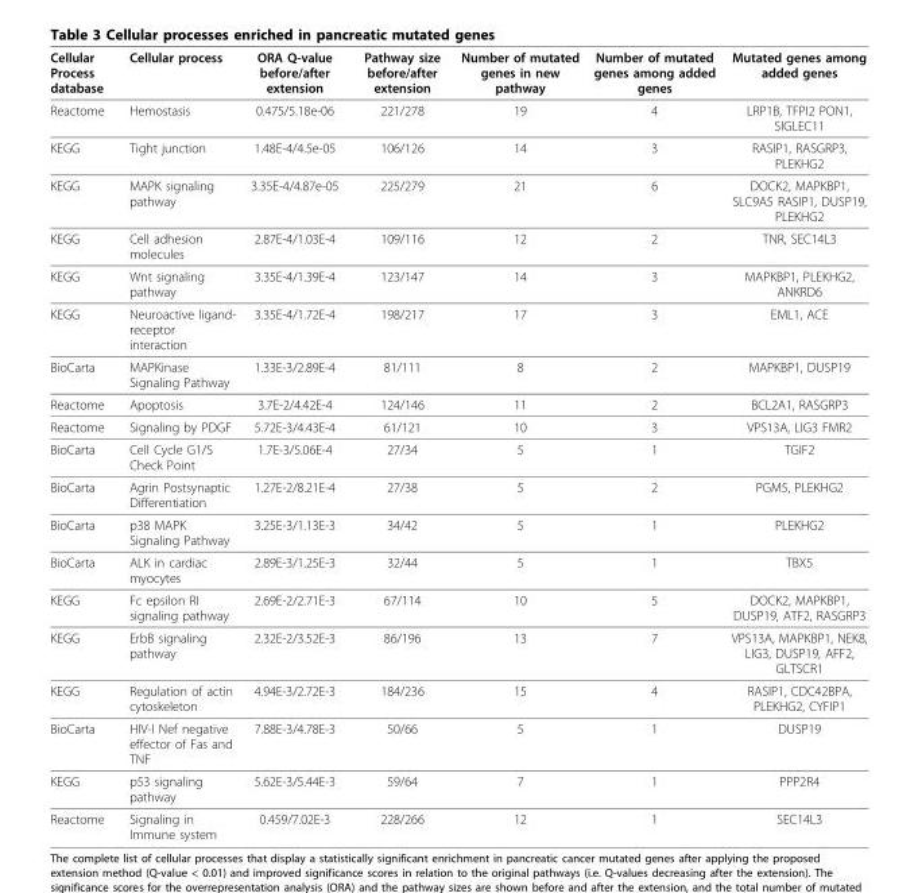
<table><thead><tr><td>Cellular Process database</td><td>Cellular process</td><td>ORA Q-value before/after extension</td><td>Pathway size before/after extension</td><td>Number of mutated genes in new pathway</td><td>Number of mutated genes among added genes</td><td>Mutated genes among added genes</td></tr></thead><tbody><tr><td>Reactome</td><td>Hemostasis</td><td>0.475/5.18e-06</td><td>221/278</td><td>19</td><td>4</td><td>LRP1B, TFPI2 PON1, SIGLEC11</td></tr><tr><td>KEGG</td><td>Tight junction</td><td>1.48E-4/4.5e-05</td><td>106/126</td><td>14</td><td>3</td><td>RASIP1, RASGRP3, PLEKHG2</td></tr><tr><td>KEGG</td><td>MAPK signaling pathway</td><td>3.35E-4/4.87e-05</td><td>225/279</td><td>21</td><td>6</td><td>DOCK2, MAPKBP1, SLC9A5 RASIP1, DUSP19, PLEKHG2</td></tr><tr><td>KEGG</td><td>Cell adhesion molecules</td><td>2.87E-4/1.03E-4</td><td>109/116</td><td>12</td><td>2</td><td>TNR, SEC14L3</td></tr><tr><td>KEGG</td><td>Wnt signaling pathway</td><td>3.35E-4/1.39E-4</td><td>123/147</td><td>14</td><td>3</td><td>MAPKBP1, PLEKHG2, ANKRD6</td></tr><tr><td>KEGG</td><td>Neuroactive ligand- receptor interaction</td><td>3.35E-4/1.72E-4</td><td>198/217</td><td>17</td><td>3</td><td>EML1, ACE</td></tr><tr><td>BioCarta</td><td>MAPKinase Signaling Pathway</td><td>1.33E-3/2.89E-4</td><td>81/111</td><td>8</td><td>2</td><td>MAPKBP1, DUSP19</td></tr><tr><td>Reactome</td><td>Apoptosis</td><td>3.7E-2/4.42E-4</td><td>124/146</td><td>11</td><td>2</td><td>BCL2A1, RASGRP3</td></tr><tr><td>Reactome</td><td>Signaling by PDGF</td><td>5.72E-3/4.43E-4</td><td>61/121</td><td>10</td><td>3</td><td>VPS13A, LIG3 FMR2</td></tr><tr><td>BioCarta</td><td>Cell Cycle G1/S Check Point</td><td>1.7E-3/5.06E-4</td><td>27/34</td><td>5</td><td>1</td><td>TGIF2</td></tr><tr><td>BioCarta</td><td>Agrin Postsynaptic Differentiation</td><td>1.27E-2/8.21E-4</td><td>27/38</td><td>5</td><td>2</td><td>PGM5, PLEKHG2</td></tr><tr><td>BioCarta</td><td>p38 MAPK Signaling Pathway</td><td>3.25E-3/1.13E-3</td><td>34/42</td><td>5</td><td>1</td><td>PLEKHG2</td></tr><tr><td>BioCarta</td><td>ALK in cardiac myocytes</td><td>2.89E-3/1.25E-3</td><td>32/44</td><td>5</td><td>1</td><td>TBX5</td></tr><tr><td>KEGG</td><td>Fc epsilon RI signaling pathway</td><td>2.69E-2/2.71E-3</td><td>67/114</td><td>10</td><td>5</td><td>DOCK2, MAPKBP1, DUSP19, ATF2, RASGRP3</td></tr><tr><td>KEGG</td><td>ErbB signaling pathway</td><td>2.32E-2/3.52E-3</td><td>86/196</td><td>13</td><td>7</td><td>VPS13A, MAPKBP1, NEK8, LIG3, DUSP19, AFF2, GLTSCR1</td></tr><tr><td>KEGG</td><td>Regulation of actin cytoskeleton</td><td>4.94E-3/2.72E-3</td><td>184/236</td><td>15</td><td>4</td><td>RASIP1, CDC42BPA, PLEKHG2, CYFIP1</td></tr><tr><td>BioCarta</td><td>HIV-I Nef negative effector of Fas and TNF</td><td>7.88E-3/4.78E-3</td><td>50/66</td><td>5</td><td>1</td><td>DUSP19</td></tr><tr><td>KEGG</td><td>p53 signaling pathway</td><td>5.62E-3/5.44E-3</td><td>59/64</td><td>7</td><td>1</td><td>PPP2R4</td></tr><tr><td>Reactome</td><td>Signaling in Immune system</td><td>0.459/7.02E-3</td><td>228/266</td><td>12</td><td>1</td><td>SEC14L3</td></tr></tbody></table>